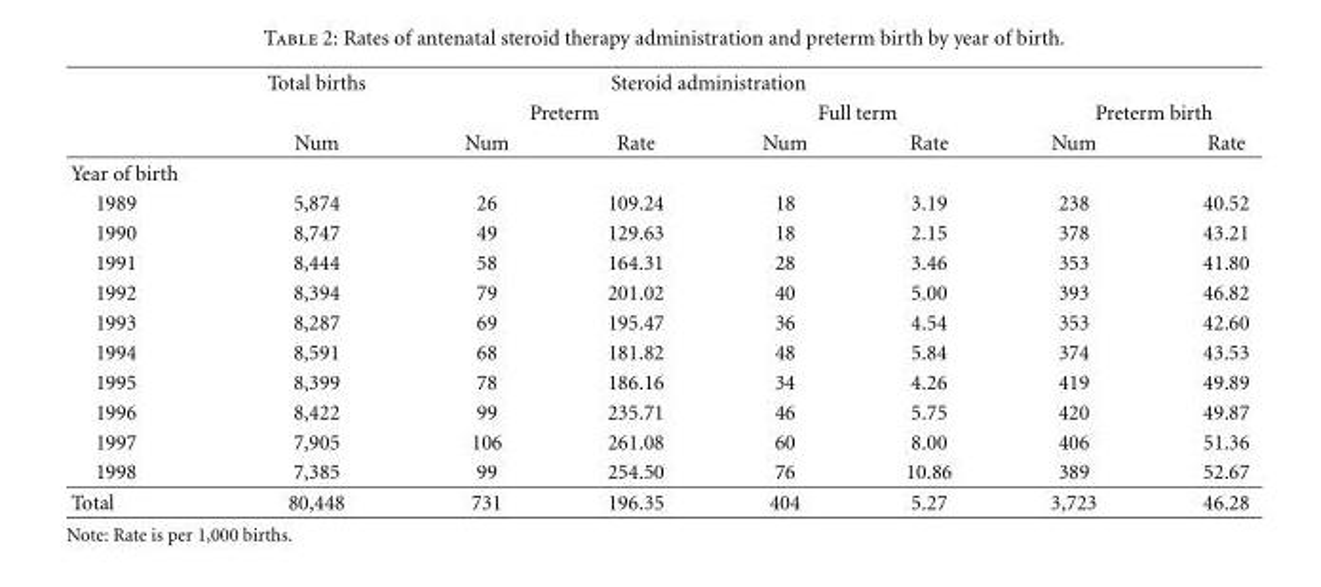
<table><thead><tr><td rowspan="3"></td><td rowspan="3">Total births Num</td><td colspan="4">Steroid administration</td><td></td><td></td></tr><tr><td colspan="2">Preterm</td><td colspan="2">Full term</td><td colspan="2">Preterm birth</td></tr><tr><td>Num</td><td>Rate</td><td>Num</td><td>Rate</td><td>Num</td><td>Rate</td></tr></thead><tbody><tr><td colspan="8">Year of birth</td></tr><tr><td>1989</td><td>5,874</td><td>26</td><td>109.24</td><td>18</td><td>3.19</td><td>238</td><td>40.52</td></tr><tr><td>1990</td><td>8,747</td><td>49</td><td>129.63</td><td>18</td><td>2.15</td><td>378</td><td>43.21</td></tr><tr><td>1991</td><td>8,444</td><td>58</td><td>164.31</td><td>28</td><td>3.46</td><td>353</td><td>41.80</td></tr><tr><td>1992</td><td>8,394</td><td>79</td><td>201.02</td><td>40</td><td>5.00</td><td>393</td><td>46.82</td></tr><tr><td>1993</td><td>8,287</td><td>69</td><td>195.47</td><td>36</td><td>4.54</td><td>353</td><td>42.60</td></tr><tr><td>1994</td><td>8,591</td><td>68</td><td>181.82</td><td>48</td><td>5.84</td><td>374</td><td>43.53</td></tr><tr><td>1995</td><td>8,399</td><td>78</td><td>186.16</td><td>34</td><td>4.26</td><td>419</td><td>49.89</td></tr><tr><td>1996</td><td>8,422</td><td>99</td><td>235.71</td><td>46</td><td>5.75</td><td>420</td><td>49.87</td></tr><tr><td>1997</td><td>7,905</td><td>106</td><td>261.08</td><td>60</td><td>8.00</td><td>406</td><td>51.36</td></tr><tr><td>1998</td><td>7,385</td><td>99</td><td>254.50</td><td>76</td><td>10.86</td><td>389</td><td>52.67</td></tr><tr><td>Total</td><td>80,448</td><td>731</td><td>196.35</td><td>404</td><td>5.27</td><td>3,723</td><td>46.28</td></tr></tbody></table>